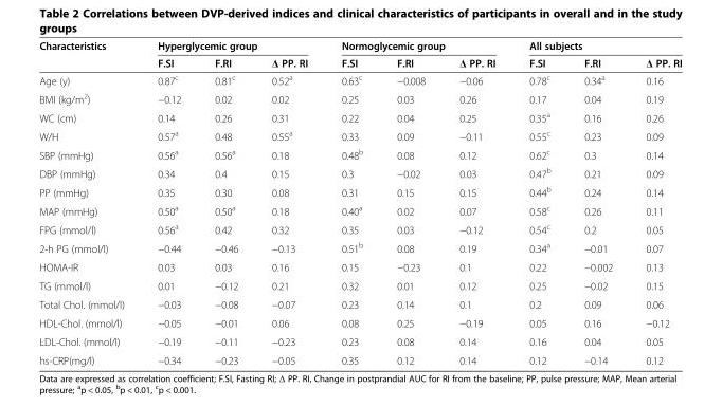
<table><thead><tr><td rowspan="2">Characteristics</td><td colspan="3">Hyperglycemic group</td><td colspan="3">Normoglycemic group</td><td colspan="3">All subjects</td></tr><tr><td>F.SI</td><td>F.RI</td><td>Δ PP. RI</td><td>F.SI</td><td>F.RI</td><td>Δ PP. RI</td><td>F.SI</td><td>F.RI</td><td>Δ PP. RI</td></tr></thead><tbody><tr><td>Age (y)</td><td>0.87<sup>c</sup></td><td>0.81<sup>c</sup></td><td>0.52<sup>a</sup></td><td>0.63<sup>c</sup></td><td>−0.008</td><td>−0.06</td><td>0.78<sup>c</sup></td><td>0.34<sup>a</sup></td><td>0.16</td></tr><tr><td>BMI (kg/m<sup>2</sup>)</td><td>−0.12</td><td>0.02</td><td>0.02</td><td>0.25</td><td>0.03</td><td>0.26</td><td>0.17</td><td>0.04</td><td>0.19</td></tr><tr><td>WC (cm)</td><td>0.14</td><td>0.26</td><td>0.31</td><td>0.22</td><td>0.04</td><td>0.25</td><td>0.35<sup>a</sup></td><td>0.16</td><td>0.26</td></tr><tr><td>W/H</td><td>0.57<sup>a</sup></td><td>0.48</td><td>0.55<sup>a</sup></td><td>0.33</td><td>0.09</td><td>−0.11</td><td>0.55<sup>c</sup></td><td>0.23</td><td>0.09</td></tr><tr><td>SBP (mmHg)</td><td>0.56<sup>a</sup></td><td>0.56<sup>a</sup></td><td>0.18</td><td>0.48<sup>b</sup></td><td>0.08</td><td>0.12</td><td>0.62<sup>c</sup></td><td>0.3</td><td>0.14</td></tr><tr><td>DBP (mmHg)</td><td>0.34</td><td>0.4</td><td>0.15</td><td>0.3</td><td>−0.02</td><td>0.03</td><td>0.47<sup>b</sup></td><td>0.21</td><td>0.09</td></tr><tr><td>PP (mmHg)</td><td>0.35</td><td>0.30</td><td>0.08</td><td>0.31</td><td>0.15</td><td>0.15</td><td>0.44<sup>b</sup></td><td>0.24</td><td>0.14</td></tr><tr><td>MAP (mmHg)</td><td>0.50<sup>a</sup></td><td>0.50<sup>a</sup></td><td>0.18</td><td>0.40<sup>a</sup></td><td>0.02</td><td>0.07</td><td>0.58<sup>c</sup></td><td>0.26</td><td>0.11</td></tr><tr><td>FPG (mmol/l)</td><td>0.56<sup>a</sup></td><td>0.42</td><td>0.32</td><td>0.35</td><td>0.03</td><td>−0.12</td><td>0.54<sup>c</sup></td><td>0.2</td><td>0.05</td></tr><tr><td>2-h PG (mmoI/l)</td><td>−0.44</td><td>−0.46</td><td>−0.13</td><td>0.51<sup>b</sup></td><td>0.08</td><td>0.19</td><td>0.34<sup>a</sup></td><td>−0.01</td><td>0.07</td></tr><tr><td>HOMA-IR</td><td>0.03</td><td>0.03</td><td>0.16</td><td>0.15</td><td>−0.23</td><td>0.1</td><td>0.22</td><td>−0.002</td><td>0.13</td></tr><tr><td>TG (mmol/l)</td><td>0.01</td><td>−0.12</td><td>0.21</td><td>0.32</td><td>0.01</td><td>0.12</td><td>0.25</td><td>−0.02</td><td>0.15</td></tr><tr><td>Total Chol. (mmol/l)</td><td>−0.03</td><td>−0.08</td><td>−0.07</td><td>0.23</td><td>0.14</td><td>0.1</td><td>0.2</td><td>0.09</td><td>0.06</td></tr><tr><td>HDL-Chol. (mmol/l)</td><td>−0.05</td><td>−0.01</td><td>0.06</td><td>0.08</td><td>0.25</td><td>−0.19</td><td>0.05</td><td>0.16</td><td>−0.12</td></tr><tr><td>LDL-Chol. (mmol/l)</td><td>−0.19</td><td>−0.11</td><td>−0.23</td><td>0.23</td><td>0.08</td><td>0.14</td><td>0.16</td><td>0.04</td><td>0.05</td></tr><tr><td>hs-CRP(mg/l)</td><td>−0.34</td><td>−0.23</td><td>−0.05</td><td>0.35</td><td>0.12</td><td>0.14</td><td>0.12</td><td>−0.14</td><td>0.12</td></tr></tbody></table>